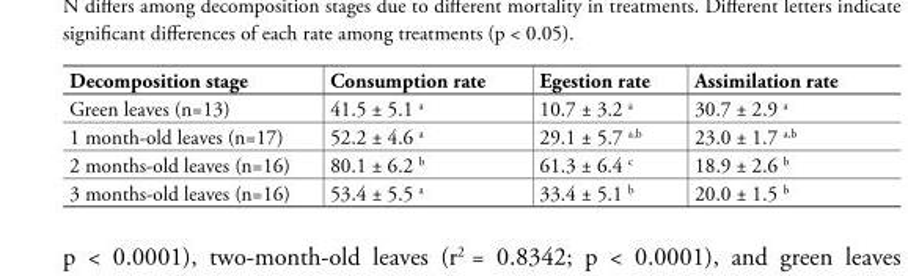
<table><thead><tr><td>Decomposition stage</td><td>Consumption rate</td><td>Egestion rate</td><td>Assimilation rate</td></tr></thead><tbody><tr><td>Green leaves (n=13)</td><td>41.5 ± 5.1 <sup>a</sup></td><td>10.7 ± 3.2 <sup>a</sup></td><td>30.7 ± 2.9 <sup>a</sup></td></tr><tr><td>1 month-old leaves (n=17)</td><td>52.2 ± 4.6 <sup>a</sup></td><td>29.1 ± 5.7 <sup>a,b</sup></td><td>23.0 ± 1.7 <sup>a,b</sup></td></tr><tr><td>2 months-old leaves (n=16)</td><td>80.1 ± 6.2 <sup>b</sup></td><td>61.3 ± 6.4 <sup>c</sup></td><td>18.9 ± 2.6 <sup>b</sup></td></tr><tr><td>3 months-old leaves (n=16)</td><td>53.4 ± 5.5 <sup>a</sup></td><td>33.4 ± 5.1 <sup>b</sup></td><td>20.0 ± 1.5 <sup>b</sup></td></tr></tbody></table>